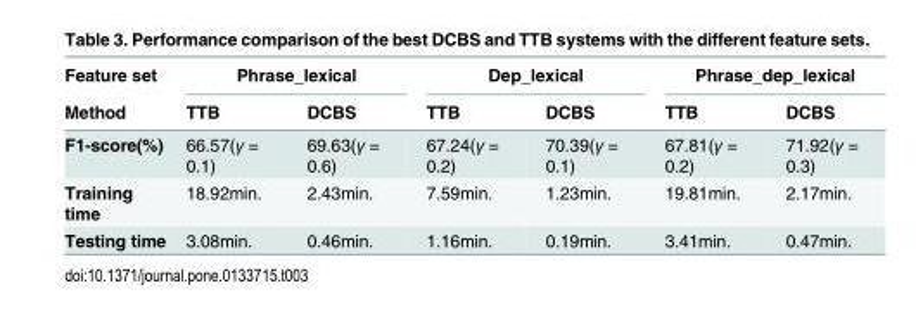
<table><thead><tr><td rowspan="2">Feature set Method</td><td colspan="2">Phrase_lexical</td><td colspan="2">Dep_lexical</td><td colspan="2">Phrase_dep_lexical</td></tr><tr><td>TTB</td><td>DCBS</td><td>TTB</td><td>DCBS</td><td>TTB</td><td>DCBS</td></tr></thead><tbody><tr><td>F1-score(%)</td><td>66.57(γ = 0.1)</td><td>69.63(γ = 0.6)</td><td>67.24(γ = 0.2)</td><td>70.39(γ = 0.1)</td><td>67.81(γ = 0.2)</td><td>71.92(γ = 0.3)</td></tr><tr><td>Training time</td><td>18.92min.</td><td>2.43min.</td><td>7.59min.</td><td>1.23min.</td><td>19.81min.</td><td>2.17min.</td></tr><tr><td>Testing time</td><td>3.08min.</td><td>0.46min.</td><td>1.16min.</td><td>0.19min.</td><td>3.41min.</td><td>0.47min.</td></tr></tbody></table>